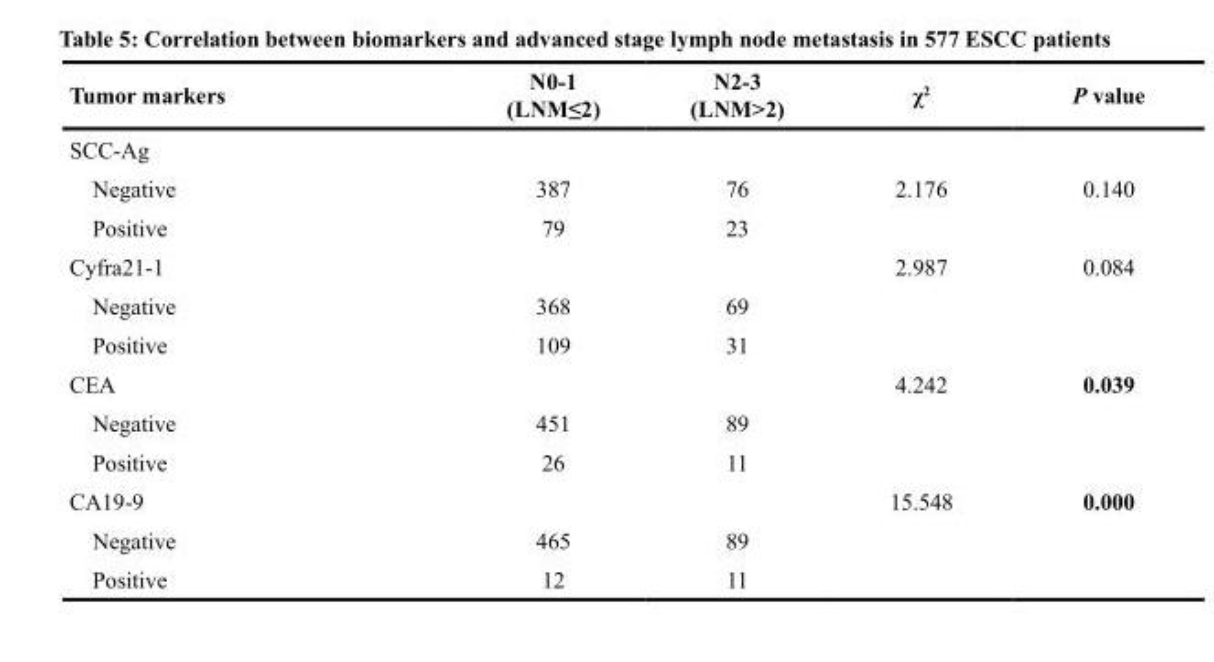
<table><thead><tr><td>Tumor markers</td><td>N0-1 (LNM≤2)</td><td>N2-3 (LNM&gt;2)</td><td>χ<sup>2</sup></td><td>P value</td></tr></thead><tbody><tr><td colspan="5">SCC-Ag</td></tr><tr><td>Negative</td><td>387</td><td>76</td><td>2.176</td><td>0.140</td></tr><tr><td>Positive</td><td>79</td><td>23</td><td></td><td></td></tr><tr><td>Cyfra21-1</td><td></td><td></td><td>2.987</td><td>0.084</td></tr><tr><td>Negative</td><td>368</td><td>69</td><td></td><td></td></tr><tr><td>Positive</td><td>109</td><td>31</td><td></td><td></td></tr><tr><td>CEA</td><td></td><td></td><td>4.242</td><td>0.039</td></tr><tr><td>Negative</td><td>451</td><td>89</td><td></td><td></td></tr><tr><td>Positive</td><td>26</td><td>11</td><td></td><td></td></tr><tr><td>CA19-9</td><td></td><td></td><td>15.548</td><td>0.000</td></tr><tr><td>Negative</td><td>465</td><td>89</td><td></td><td></td></tr><tr><td>Positive</td><td>12</td><td>11</td><td></td><td></td></tr></tbody></table>